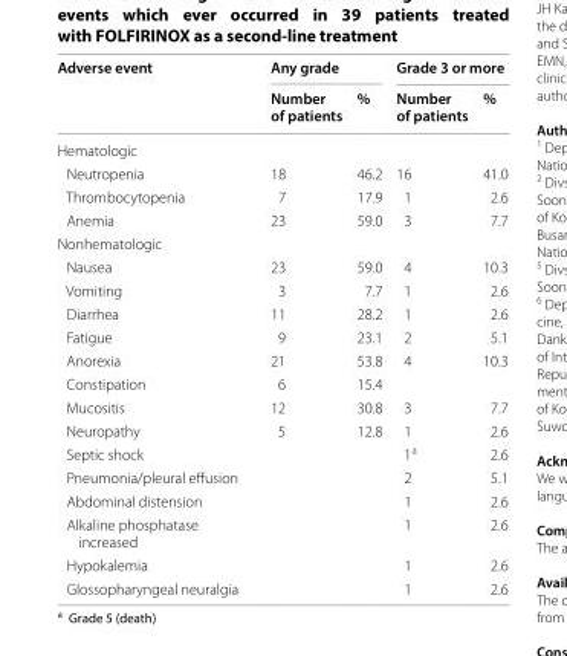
<table><thead><tr><td rowspan="2">Adverse event</td><td colspan="2">Any grade</td><td colspan="2">Grade 3 or more</td></tr><tr><td>Number of patients</td><td>%</td><td>Number of patients</td><td>%</td></tr></thead><tbody><tr><td colspan="5">Hematologic</td></tr><tr><td>Neutropenia</td><td>18</td><td>46.2</td><td>16</td><td>41.0</td></tr><tr><td>Thrombocytopenia</td><td>7</td><td>17.9</td><td>1</td><td>2.6</td></tr><tr><td>Anemia</td><td>23</td><td>59.0</td><td>3</td><td>7.7</td></tr><tr><td colspan="5">Nonhematologic</td></tr><tr><td>Nausea</td><td>23</td><td>59.0</td><td>4</td><td>10.3</td></tr><tr><td>Vomiting</td><td>3</td><td>7.7</td><td>1</td><td>2.6</td></tr><tr><td>Diarrhea</td><td>11</td><td>28.2</td><td>1</td><td>2.6</td></tr><tr><td>Fatigue</td><td>9</td><td>23.1</td><td>2</td><td>5.1</td></tr><tr><td>Anorexia</td><td>21</td><td>53.8</td><td>4</td><td>10.3</td></tr><tr><td>Constipation</td><td>6</td><td>15.4</td><td></td><td></td></tr><tr><td>Mucositis</td><td>12</td><td>30.8</td><td>3</td><td>7.7</td></tr><tr><td>Neuropathy</td><td>5</td><td>12.8</td><td>1</td><td>2.6</td></tr><tr><td>Septic shock</td><td></td><td></td><td>1<sup>a</sup></td><td>2.6</td></tr><tr><td>Pneumonia/pleural effusion</td><td></td><td></td><td>2</td><td>5.1</td></tr><tr><td>Abdominal distension</td><td></td><td></td><td>1</td><td>2.6</td></tr><tr><td>Alkaline phosphatase increased</td><td></td><td></td><td>1</td><td>2.6</td></tr><tr><td>Hypokalemia</td><td></td><td></td><td>1</td><td>2.6</td></tr><tr><td>Glossopharyngeal neuralgia</td><td></td><td></td><td>1</td><td>2.6</td></tr></tbody></table>